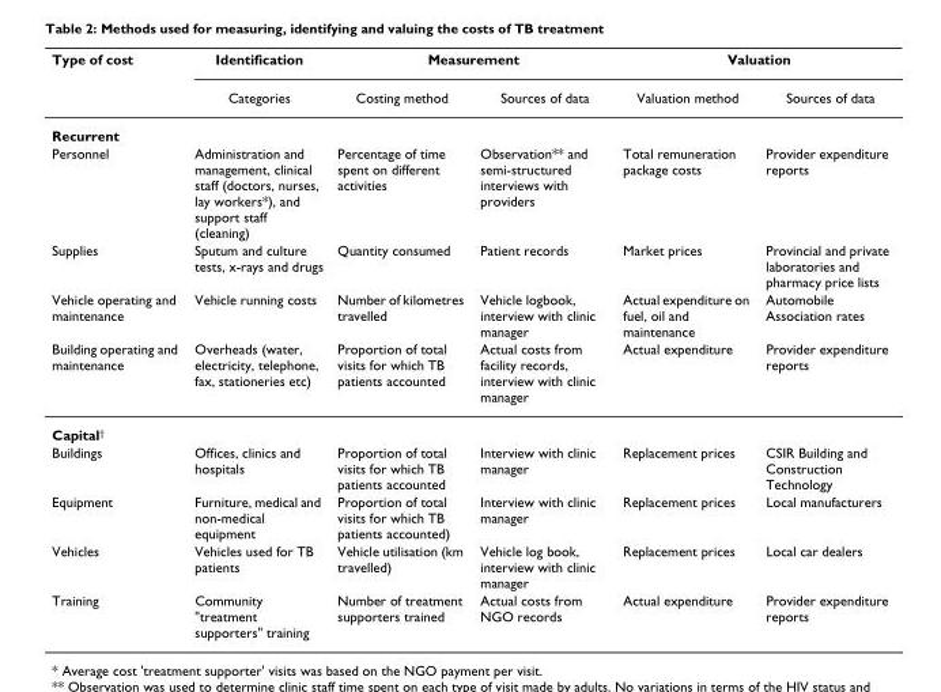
<table><thead><tr><td rowspan="2">Type of cost</td><td rowspan="2">Identification Categories</td><td colspan="2">Measurement</td><td colspan="2">Valuation</td></tr><tr><td>Costing method</td><td>Sources of data</td><td>Valuation method</td><td>Sources of data</td></tr></thead><tbody><tr><td colspan="6">Recurrent</td></tr><tr><td>Personnel</td><td>Administration and management, clinical staff (doctors, nurses, lay workers*), and support staff (cleaning)</td><td>Percentage of time spent on different activities</td><td>Observation** and semi-structured interviews with providers</td><td>Total remuneration package costs</td><td>Provider expenditure reports</td></tr><tr><td>Supplies</td><td>Sputum and culture tests, x-rays and drugs</td><td>Quantity consumed</td><td>Patient records</td><td>Market prices</td><td>Provincial and private laboratories and pharmacy price lists</td></tr><tr><td>Vehicle operating and maintenance</td><td>Vehicle running costs</td><td>Number of kilometres travelled</td><td>Vehicle logbook, interview with clinic manager</td><td>Actual expenditure on fuel, oil and maintenance</td><td>Automobile Association rates</td></tr><tr><td>Building operating and maintenance</td><td>Overheads (water, electricity, telephone, fax, stationeries etc)</td><td>Proportion of total visits for which TB patients accounted</td><td>Actual costs from facility records, interview with clinic manager</td><td>Actual expenditure</td><td>Provider expenditure reports</td></tr><tr><td colspan="6">Capital<sup>†</sup></td></tr><tr><td>Buildings</td><td>Offices, clinics and hospitals</td><td>Proportion of total visits for which TB patients accounted</td><td>Interview with clinic manager</td><td>Replacement prices</td><td>CSIR Building and Construction Technology</td></tr><tr><td>Equipment</td><td>Furniture, medical and non-medical equipment</td><td>Proportion of total visits for which TB patients accounted)</td><td>Interview with clinic manager</td><td>Replacement prices</td><td>Local manufacturers</td></tr><tr><td>Vehicles</td><td>Vehicles used for TB patients</td><td>Vehicle utilisation (km travelled)</td><td>Vehicle log book, interview with clinic manager</td><td>Replacement prices</td><td>Local car dealers</td></tr><tr><td>Training</td><td>Community &quot;treatment supporters&quot; training</td><td>Number of treatment supporters trained</td><td>Actual costs from NGO records</td><td>Actual expenditure</td><td>Provider expenditure reports</td></tr></tbody></table>